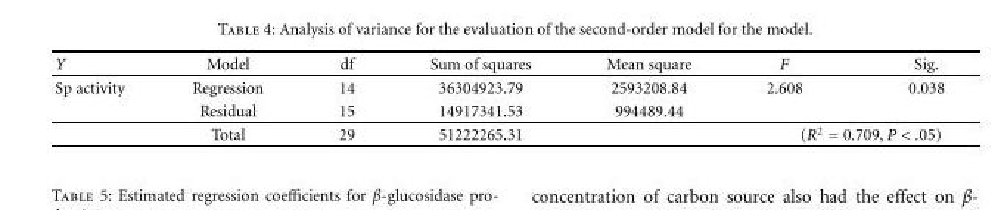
<table><thead><tr><td>Y</td><td>Model</td><td>df</td><td>Sum of squares</td><td>Mean square</td><td>F</td><td>Sig.</td></tr></thead><tbody><tr><td rowspan="3">Sp activity</td><td>Regression</td><td>14</td><td>36304923.79</td><td>2593208.84</td><td>2.608</td><td>0.038</td></tr><tr><td>Residual</td><td>15</td><td>14917341.53</td><td>994489.44</td><td></td><td></td></tr><tr><td>Total</td><td>29</td><td>51222265.31</td><td></td><td colspan="2">(R<sup>2</sup> = 0.709, P &lt; .05)</td></tr></tbody></table>